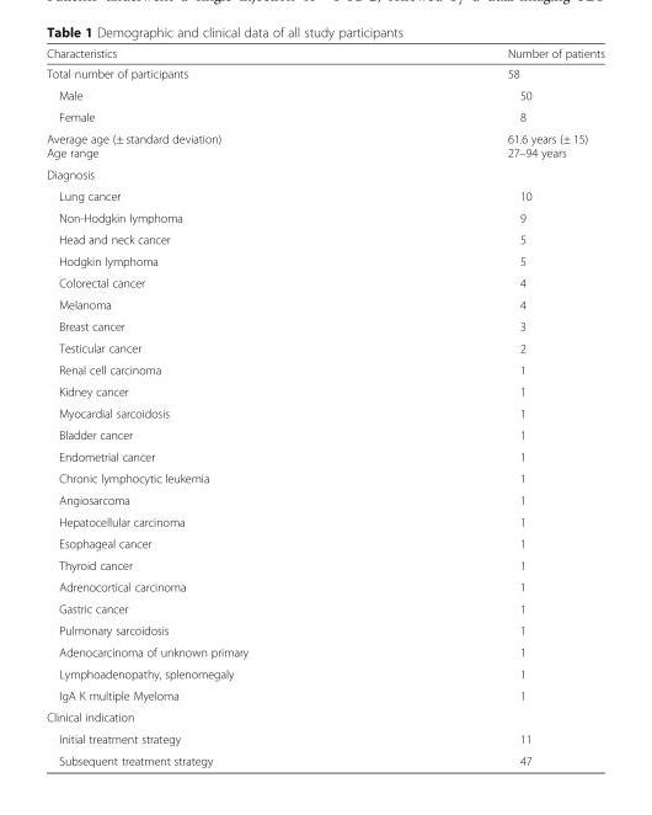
<table><thead><tr><td>Characteristics</td><td>Number of patients</td></tr></thead><tbody><tr><td>Total number of participants</td><td>58</td></tr><tr><td>Male</td><td>50</td></tr><tr><td>Female</td><td>8</td></tr><tr><td>Average age (± standard deviation) Age range</td><td>61.6 years (± 15) 27–94 years</td></tr><tr><td colspan="2">Diagnosis</td></tr><tr><td>Lung cancer</td><td>10</td></tr><tr><td>Non-Hodgkin lymphoma</td><td>9</td></tr><tr><td>Head and neck cancer</td><td>5</td></tr><tr><td>Hodgkin lymphoma</td><td>5</td></tr><tr><td>Colorectal cancer</td><td>4</td></tr><tr><td>Melanoma</td><td>4</td></tr><tr><td>Breast cancer</td><td>3</td></tr><tr><td>Testicular cancer</td><td>2</td></tr><tr><td>Renal cell carcinoma</td><td>1</td></tr><tr><td>Kidney cancer</td><td>1</td></tr><tr><td>Myocardial sarcoidosis</td><td>1</td></tr><tr><td>Bladder cancer</td><td>1</td></tr><tr><td>Endometrial cancer</td><td>1</td></tr><tr><td>Chronic lymphocytic leukemia</td><td>1</td></tr><tr><td>Angiosarcoma</td><td>1</td></tr><tr><td>Hepatocellular carcinoma</td><td>1</td></tr><tr><td>Esophageal cancer</td><td>1</td></tr><tr><td>Thyroid cancer</td><td>1</td></tr><tr><td>Adrenocortical carcinoma</td><td>1</td></tr><tr><td>Gastric cancer</td><td>1</td></tr><tr><td>Pulmonary sarcoidosis</td><td>1</td></tr><tr><td>Adenocarcinoma of unknown primary</td><td>1</td></tr><tr><td>Lymphoadenopathy, splenomegaly</td><td>1</td></tr><tr><td>IgA K multiple Myeloma</td><td>1</td></tr><tr><td colspan="2">Clinical indication</td></tr><tr><td>Initial treatment strategy</td><td>11</td></tr><tr><td>Subsequent treatment strategy</td><td>47</td></tr></tbody></table>